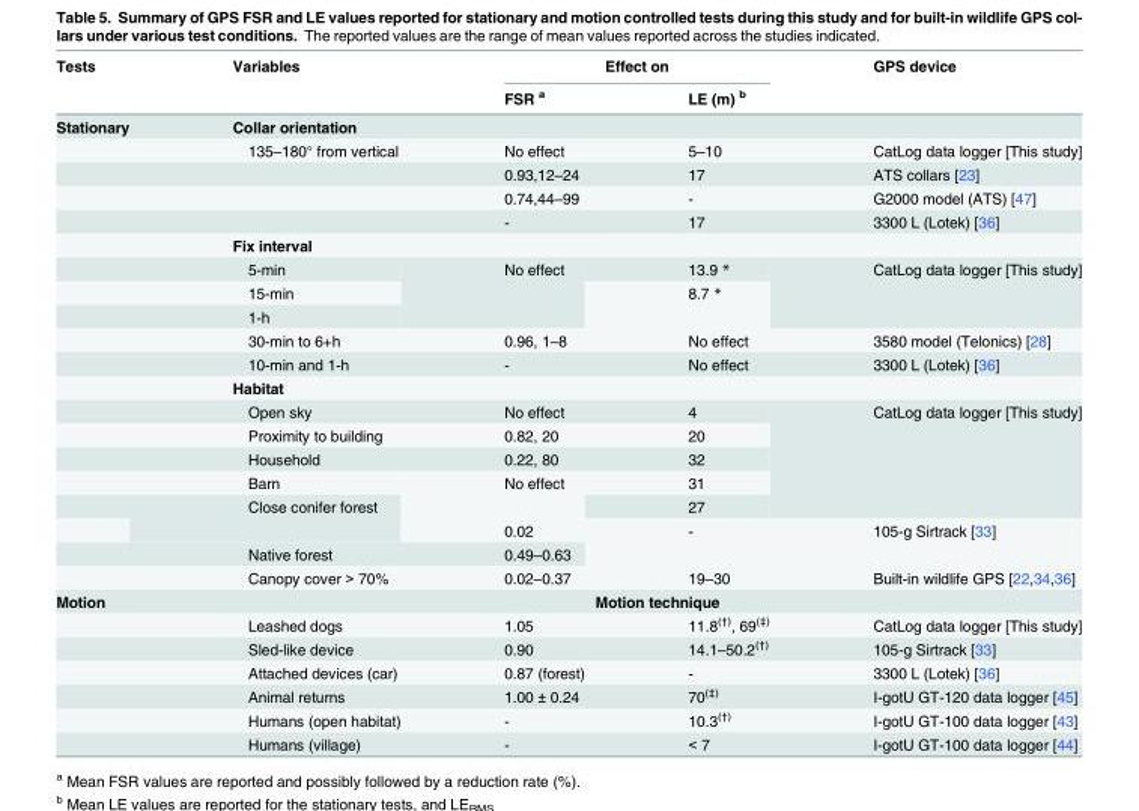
<table><thead><tr><td rowspan="2">Tests</td><td rowspan="2">Variables</td><td colspan="2">Effect on</td><td rowspan="2">GPS device</td></tr><tr><td>FSR <sup>a</sup></td><td>LE (m) <sup>b</sup></td></tr></thead><tbody><tr><td rowspan="20">Stationary</td><td>Collar orientation</td><td></td><td></td><td></td></tr><tr><td>135–180° from vertical</td><td>No effect</td><td>5–10</td><td>CatLog data logger [This study]</td></tr><tr><td></td><td>0.93,12–24</td><td>17</td><td>ATS collars [23]</td></tr><tr><td></td><td>0.74,44–99</td><td>-</td><td>G2000 model (ATS) [47]</td></tr><tr><td></td><td>-</td><td>17</td><td>3300 L (Lotek) [36]</td></tr><tr><td>Fix interval</td><td></td><td></td><td></td></tr><tr><td>5-min</td><td rowspan="3">No effect</td><td>13.9 *</td><td rowspan="3">CatLog data logger [This study]</td></tr><tr><td>15-min</td><td rowspan="2">8.7 *</td></tr><tr><td>1-h</td></tr><tr><td>30-min to 6+h</td><td>0.96, 1–8</td><td>No effect</td><td>3580 model (Telonics) [28]</td></tr><tr><td>10-min and 1-h</td><td>-</td><td>No effect</td><td>3300 L (Lotek) [36]</td></tr><tr><td>Habitat</td><td></td><td></td><td></td></tr><tr><td>Open sky</td><td>No effect</td><td>4</td><td rowspan="5">CatLog data logger [This study]</td></tr><tr><td>Proximity to building</td><td>0.82, 20</td><td>20</td></tr><tr><td>Household</td><td>0.22, 80</td><td>32</td></tr><tr><td>Barn</td><td rowspan="2">No effect</td><td>31</td></tr><tr><td rowspan="2">Close conifer forest</td><td>27</td></tr><tr><td>0.02</td><td rowspan="2">-</td><td rowspan="2">105-g Sirtrack [33]</td></tr><tr><td>Native forest</td><td>0.49–0.63</td></tr><tr><td>Canopy cover &gt; 70%</td><td>0.02–0.37</td><td>19–30</td><td>Built-in wildlife GPS [22,34,36]</td></tr><tr><td rowspan="7">Motion</td><td colspan="4">Motion technique</td></tr><tr><td>Leashed dogs</td><td>1.05</td><td>11.8<sup>(†)</sup>, 69<sup>(‡)</sup></td><td>CatLog data logger [This study]</td></tr><tr><td>Sled-like device</td><td>0.90</td><td>14.1–50.2<sup>(†)</sup></td><td>105-g Sirtrack [33]</td></tr><tr><td>Attached devices (car)</td><td>0.87 (forest)</td><td>-</td><td>3300 L (Lotek) [36]</td></tr><tr><td>Animal returns</td><td>1.00 ± 0.24</td><td>70<sup>(‡)</sup></td><td>I-gotU GT-120 data logger [45]</td></tr><tr><td>Humans (open habitat)</td><td>-</td><td>10.3<sup>(†)</sup></td><td>I-gotU GT-100 data logger [43]</td></tr><tr><td>Humans (village)</td><td>-</td><td>&lt; 7</td><td>I-gotU GT-100 data logger [44]</td></tr></tbody></table>